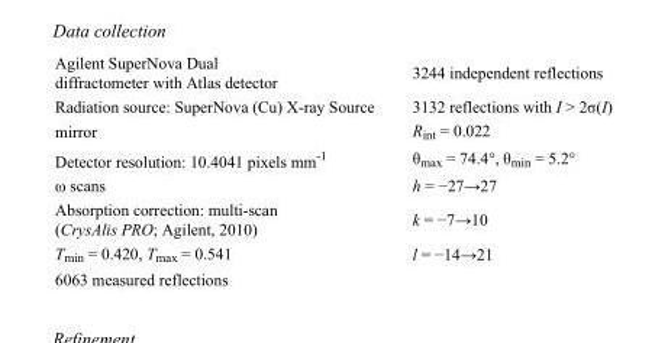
<table><tbody><tr><td>Agilent SuperNova Dual diffractometer with Atlas detector</td><td>3244 independent reflections</td></tr><tr><td>Radiation source: SuperNova (Cu) X-ray Source</td><td>3132 reflections with I &gt; 2σ(I)</td></tr><tr><td>mirror</td><td>R<sub>int</sub> = 0.022</td></tr><tr><td>Detector resolution: 10.4041 pixels mm<sup>-1</sup></td><td>θ<sub>max</sub> = 74.4°, θ<sub>min</sub> = 5.2°</td></tr><tr><td>ω scans</td><td>h = −27→27</td></tr><tr><td>Absorption correction: multi-scan (CrysAlis PRO; Agilent, 2010)</td><td>k = −7→10</td></tr><tr><td>T<sub>min</sub> = 0.420, T<sub>max</sub> = 0.541</td><td>l = −14→21</td></tr><tr><td>6063 measured reflections</td><td></td></tr></tbody></table>